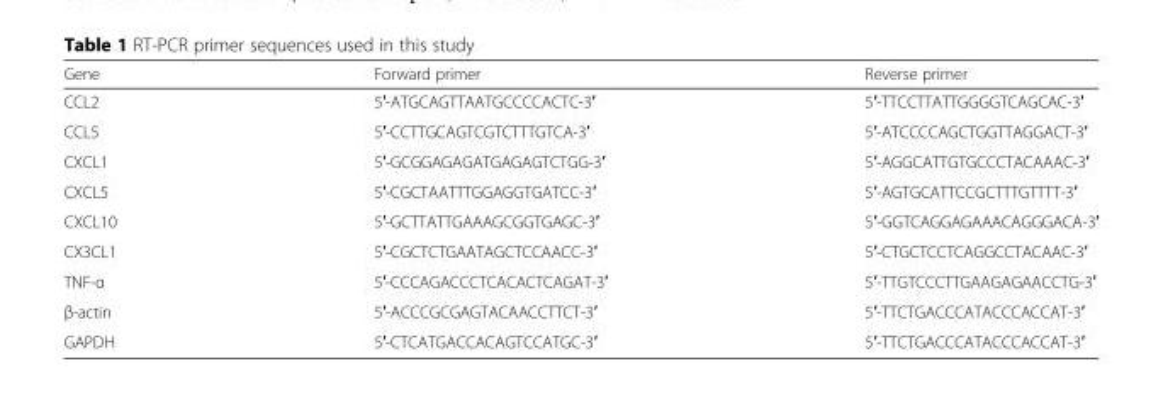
<table><thead><tr><td>Gene</td><td>Forward primer</td><td>Reverse primer</td></tr></thead><tbody><tr><td>CCL2</td><td>5′-ATGCAGTTAATGCCCCACTC-3′</td><td>5′-TTCCTTATTGGGGTCAGCAC-3′</td></tr><tr><td>CCL5</td><td>5′-CCTTGCAGTCGTCTTTGTCA-3′</td><td>5′-ATCCCCAGCTGGTTAGGACT-3′</td></tr><tr><td>CXCL1</td><td>5′-GCGGAGAGATGAGAGTCTGG-3′</td><td>5′-AGGCATTGTGCCCTACAAAC-3′</td></tr><tr><td>CXCL5</td><td>5′-CGCTAATTTGGAGGTGATCC-3′</td><td>5′-AGTGCATTCCGCTTTGTTTT-3′</td></tr><tr><td>CXCL10</td><td>5′-GCTTATTGAAAGCGGTGAGC-3′</td><td>5′-GGTCAGGAGAAACAGGGACA-3′</td></tr><tr><td>CX3CL1</td><td>5′-CGCTCTGAATAGCTCCAACC-3′</td><td>5′-CTGCTCCTCAGGCCTACAAC-3′</td></tr><tr><td>TNF-α</td><td>5′-CCCAGACCCTCACACTCAGAT-3′</td><td>5′-TTGTCCCTTGAAGAGAACCTG-3′</td></tr><tr><td>β-actin</td><td>5′-ACCCGCGAGTACAACCTTCT-3′</td><td>5′-TTCTGACCCATACCCACCAT-3′</td></tr><tr><td>GAPDH</td><td>5′-CTCATGACCACAGTCCATGC-3′</td><td>5′-TTCTGACCCATACCCACCAT-3′</td></tr></tbody></table>